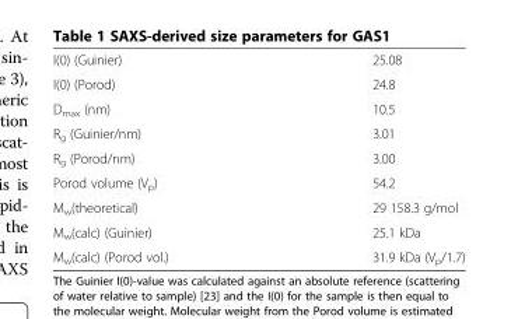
<table><tbody><tr><td>I(0) (Guinier)</td><td>25.08</td></tr><tr><td>I(0) (Porod)</td><td>24.8</td></tr><tr><td>D<sub>max</sub> (nm)</td><td>10.5</td></tr><tr><td>R<sub>g</sub> (Guinier/nm)</td><td>3.01</td></tr><tr><td>R<sub>g</sub> (Porod/nm)</td><td>3.00</td></tr><tr><td>Porod volume (V<sub>p</sub>)</td><td>54.2</td></tr><tr><td>M<sub>w</sub>(theoretical)</td><td>29 158.3 g/mol</td></tr><tr><td>M<sub>w</sub>(calc) (Guinier)</td><td>25.1 kDa</td></tr><tr><td>M<sub>w</sub>(calc) (Porod vol.)</td><td>31.9 kDa (V<sub>p</sub>/1.7)</td></tr></tbody></table>